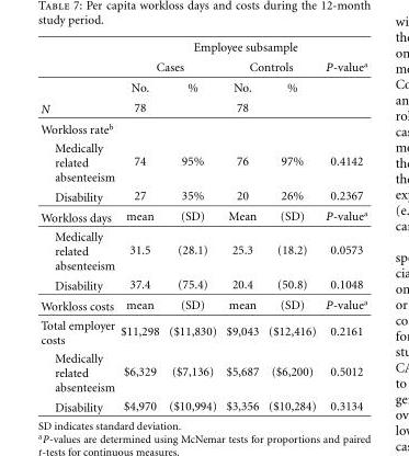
<table><thead><tr><td rowspan="4">N</td><td colspan="5">Employee subsample</td></tr><tr><td colspan="2">Cases</td><td colspan="2">Controls</td><td rowspan="3">P-valuea</td></tr><tr><td rowspan="2">No. 78</td><td rowspan="2">%</td><td rowspan="2">No. 78</td><td rowspan="2">%</td></tr><tr></tr></thead><tbody><tr><td colspan="6">Workloss rate<sup>b</sup></td></tr><tr><td>Medically related absenteeism</td><td>74</td><td>95%</td><td>76</td><td>97%</td><td>0.4142</td></tr><tr><td>Disability</td><td>27</td><td>35%</td><td>20</td><td>26%</td><td>0.2367</td></tr><tr><td>Workloss days</td><td>mean</td><td>(SD)</td><td>Mean</td><td>(SD)</td><td>P-valuea</td></tr><tr><td>Medically related absenteeism</td><td>31.5</td><td>(28.1)</td><td>25.3</td><td>(18.2)</td><td>0.0573</td></tr><tr><td>Disability</td><td>37.4</td><td>(75.4)</td><td>20.4</td><td>(50.8)</td><td>0.1048</td></tr><tr><td>Workloss costs</td><td>mean</td><td>(SD)</td><td>mean</td><td>(SD)</td><td>P-valuea</td></tr><tr><td>Total employer costs</td><td>$11,298</td><td>($11,830)</td><td>$9,043</td><td>($12,416)</td><td>0.2161</td></tr><tr><td>Medically related absenteeism</td><td>$6,329</td><td>($7,136)</td><td>$5,687</td><td>($6,200)</td><td>0.5012</td></tr><tr><td>Disability</td><td>$4,970</td><td>($10,994)</td><td>$3,356</td><td>($10,284)</td><td>0.3134</td></tr></tbody></table>